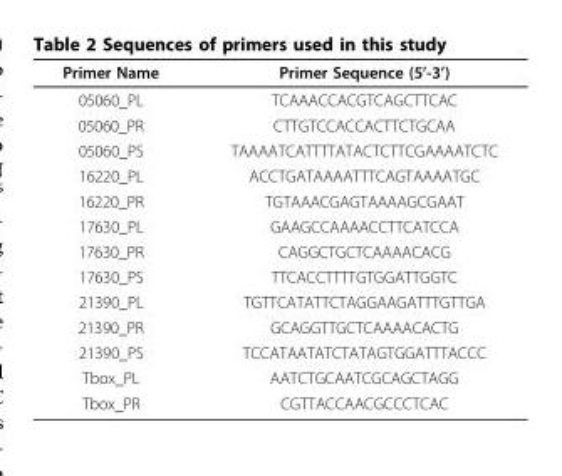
<table><thead><tr><td>Primer Name</td><td>Primer Sequence (5’-3’)</td></tr></thead><tbody><tr><td>05060_PL</td><td>TCAAACCACGTCAGCTTCAC</td></tr><tr><td>05060_PR</td><td>CTTGTCCACCACTTCTGCAA</td></tr><tr><td>05060_PS</td><td>TAAAATCATTTTATACTCTTCGAAAATCTC</td></tr><tr><td>16220_PL</td><td>ACCTGATAAAATTTCAGTAAAATGC</td></tr><tr><td>16220_PR</td><td>TGTAAACGAGTAAAAGCGAAT</td></tr><tr><td>17630_PL</td><td>GAAGCCAAAACCTTCATCCA</td></tr><tr><td>17630_PR</td><td>CAGGCTGCTCAAAACACG</td></tr><tr><td>17630_PS</td><td>TTCACCTTTTGTGGATTGGTC</td></tr><tr><td>21390_PL</td><td>TGTTCATATTCTAGGAAGATTTGTTGA</td></tr><tr><td>21390_PR</td><td>GCAGGTTGCTCAAAACACTG</td></tr><tr><td>21390_PS</td><td>TCCATAATATCTATAGTGGATTTACCC</td></tr><tr><td>Tbox_PL</td><td>AATCTGCAATCGCAGCTAGG</td></tr><tr><td>Tbox_PR</td><td>CGTTACCAACGCCCTCAC</td></tr></tbody></table>